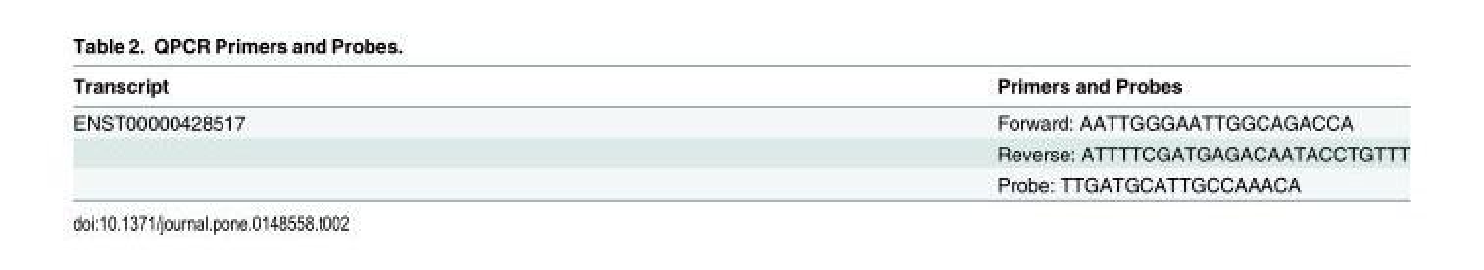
<table><thead><tr><td>Transcript</td><td>Primers and Probes</td></tr></thead><tbody><tr><td rowspan="3">ENST00000428517</td><td>Forward: AATTGGGAATTGGCAGACCA</td></tr><tr><td>Reverse: ATTTTCGATGAGACAATACCTGTTT</td></tr><tr><td>Probe: TTGATGCATTGCCAAACA</td></tr></tbody></table>